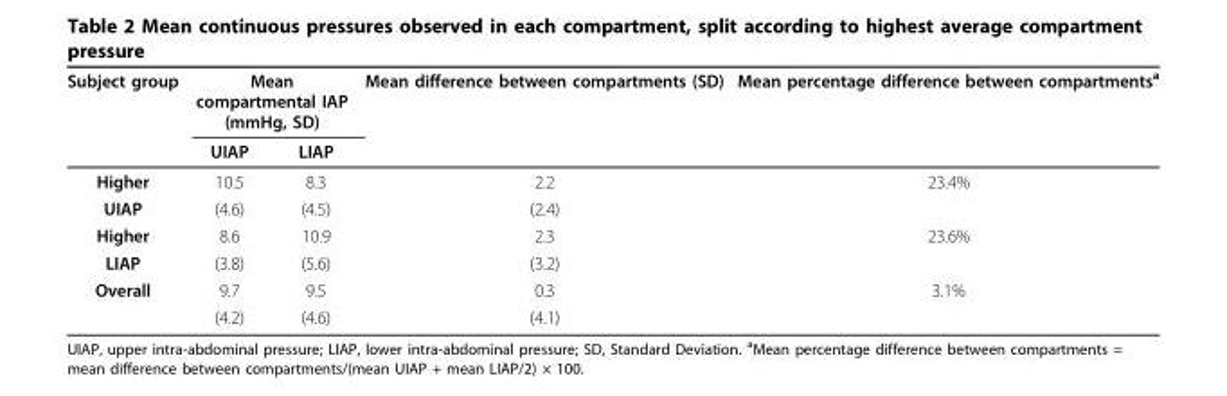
<table><thead><tr><td rowspan="2">Subject group</td><td colspan="2">Mean compartmental IAP (mmHg, SD)</td><td rowspan="2">Mean difference between compartments (SD)</td><td rowspan="2">Mean percentage difference between compartments<sup>a</sup></td></tr><tr><td>UIAP</td><td>LIAP</td></tr></thead><tbody><tr><td>Higher</td><td>10.5</td><td>8.3</td><td>2.2</td><td>23.4%</td></tr><tr><td>UIAP</td><td>(4.6)</td><td>(4.5)</td><td>(2.4)</td><td></td></tr><tr><td>Higher</td><td>8.6</td><td>10.9</td><td>2.3</td><td>23.6%</td></tr><tr><td>LIAP</td><td>(3.8)</td><td>(5.6)</td><td>(3.2)</td><td></td></tr><tr><td rowspan="2">Overall</td><td>9.7</td><td>9.5</td><td>0.3</td><td>3.1%</td></tr><tr><td>(4.2)</td><td>(4.6)</td><td>(4.1)</td><td></td></tr></tbody></table>